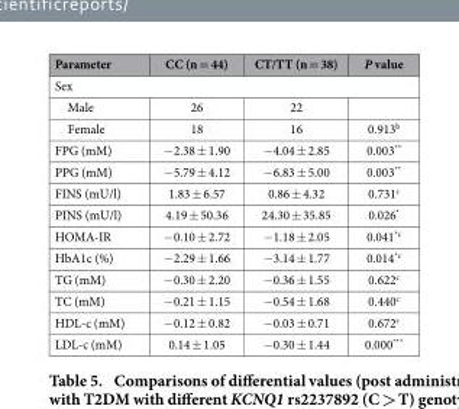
<table><thead><tr><td>Parameter</td><td>CC (n = 44)</td><td>CT/TT (n = 38)</td><td>P value</td></tr></thead><tbody><tr><td colspan="4">Sex</td></tr><tr><td>Male</td><td>26</td><td>22</td><td></td></tr><tr><td>Female</td><td>18</td><td>16</td><td>0.913<sup>b</sup></td></tr><tr><td>FPG (mM)</td><td>− 2.38 ± 1.90</td><td>− 4.04 ± 2.85</td><td>0.003**</td></tr><tr><td>PPG (mM)</td><td>− 5.79 ± 4.12</td><td>− 6.83 ± 5.00</td><td>0.003**</td></tr><tr><td>FINS (mU/l)</td><td>1.83 ± 6.57</td><td>0.86 ± 4.32</td><td>0.731<sup>c</sup></td></tr><tr><td>PINS (mU/l)</td><td>4.19 ± 50.36</td><td>24.30 ± 35.85</td><td>0.026*</td></tr><tr><td>HOMA-IR</td><td>− 0.10 ± 2.72</td><td>− 1.18 ± 2.05</td><td>0.041<sup>*c</sup></td></tr><tr><td>HbA1c (%)</td><td>− 2.29 ± 1.66</td><td>− 3.14 ± 1.77</td><td>0.014<sup>*c</sup></td></tr><tr><td>TG (mM)</td><td>− 0.30 ± 2.20</td><td>− 0.36 ± 1.55</td><td>0.622<sup>c</sup></td></tr><tr><td>TC (mM)</td><td>− 0.21 ± 1.15</td><td>− 0.54 ± 1.68</td><td>0.440<sup>c</sup></td></tr><tr><td>HDL-c (mM)</td><td>− 0.12 ± 0.82</td><td>− 0.03 ± 0.71</td><td>0.672<sup>c</sup></td></tr><tr><td>LDL-c (mM)</td><td>0.14 ± 1.05</td><td>− 0.30 ± 1.44</td><td>0.000***</td></tr></tbody></table>